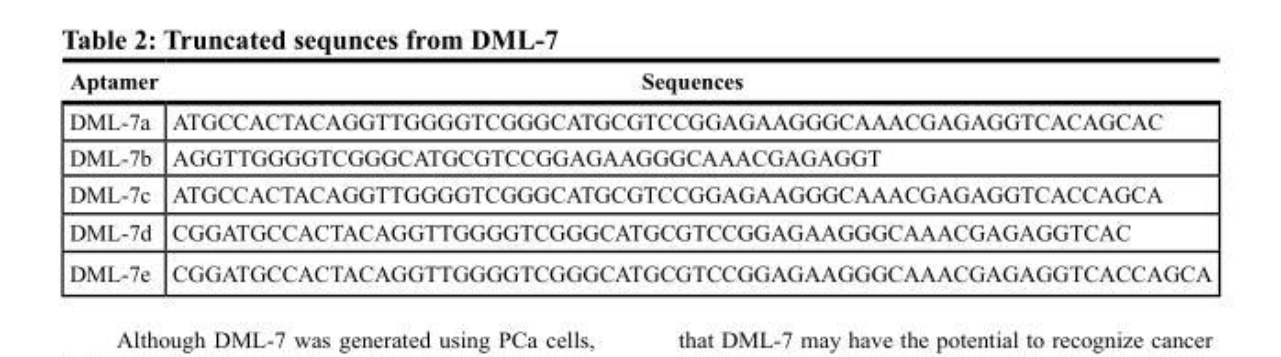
<table><thead><tr><td>Aptamer</td><td>Sequences</td></tr></thead><tbody><tr><td>DML-7a</td><td>ATGCCACTACAGGTTGGGGTCGGGCATGCGTCCGGAGAAGGGCAAACGAGAGGTCACAGCAC</td></tr><tr><td>DML-7b</td><td>AGGTTGGGGTCGGGCATGCGTCCGGAGAAGGGCAAACGAGAGGT</td></tr><tr><td>DML-7c</td><td>ATGCCACTACAGGTTGGGGTCGGGCATGCGTCCGGAGAAGGGCAAACGAGAGGTCACCAGCA</td></tr><tr><td>DML-7d</td><td>CGGATGCCACTACAGGTTGGGGTCGGGCATGCGTCCGGAGAAGGGCAAACGAGAGGTCAC</td></tr><tr><td>DML-7e</td><td>CGGATGCCACTACAGGTTGGGGTCGGGCATGCGTCCGGAGAAGGGCAAACGAGAGGTCACCAGCA</td></tr></tbody></table>